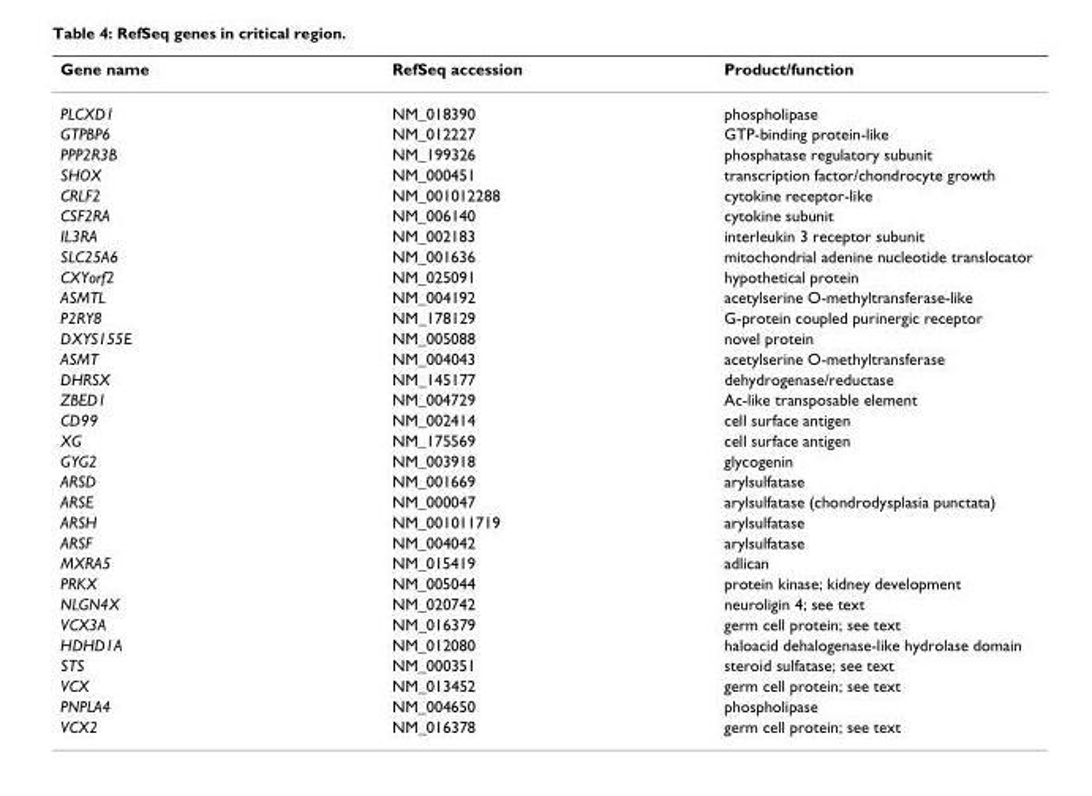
<table><thead><tr><td>Gene name</td><td>RefSeq accession</td><td>Product/function</td></tr></thead><tbody><tr><td>PLCXD1</td><td>NM_018390</td><td>phospholipase</td></tr><tr><td>GTPBP6</td><td>NM_012227</td><td>GTP-binding protein-like</td></tr><tr><td>PPP2R3B</td><td>NM_199326</td><td>phosphatase regulatory subunit</td></tr><tr><td>SHOX</td><td>NM_000451</td><td>transcription factor/chondrocyte growth</td></tr><tr><td>CRLF2</td><td>NM_001012288</td><td>cytokine receptor-like</td></tr><tr><td>CSF2RA</td><td>NM_006140</td><td>cytokine subunit</td></tr><tr><td>IL3RA</td><td>NM_002183</td><td>interleukin 3 receptor subunit</td></tr><tr><td>SLC25A6</td><td>NM_001636</td><td>mitochondrial adenine nucleotide translocator</td></tr><tr><td>CXYorf2</td><td>NM_025091</td><td>hypothetical protein</td></tr><tr><td>ASMTL</td><td>NM_004192</td><td>acetylserine O-methyltransferase-like</td></tr><tr><td>P2RY8</td><td>NM_178129</td><td>G-protein coupled purinergic receptor</td></tr><tr><td>DXYS155E</td><td>NM_005088</td><td>novel protein</td></tr><tr><td>ASMT</td><td>NM_004043</td><td>acetylserine O-methyltransferase</td></tr><tr><td>DHRSX</td><td>NM_145177</td><td>dehydrogenase/reductase</td></tr><tr><td>ZBED1</td><td>NM_004729</td><td>Ac-like transposable element</td></tr><tr><td>CD99</td><td>NM_002414</td><td>cell surface antigen</td></tr><tr><td>XG</td><td>NM_175569</td><td>cell surface antigen</td></tr><tr><td>GYG2</td><td>NM_003918</td><td>glycogenin</td></tr><tr><td>ARSD</td><td>NM_001669</td><td>arylsulfatase</td></tr><tr><td>ARSE</td><td>NM_000047</td><td>arylsulfatase (chondrodysplasia punctata)</td></tr><tr><td>ARSH</td><td>NM_001011719</td><td>arylsulfatase</td></tr><tr><td>ARSF</td><td>NM_004042</td><td>arylsulfatase</td></tr><tr><td>MXRA5</td><td>NM_015419</td><td>adlican</td></tr><tr><td>PRKX</td><td>NM_005044</td><td>protein kinase; kidney development</td></tr><tr><td>NLGN4X</td><td>NM_020742</td><td>neuroligin 4; see text</td></tr><tr><td>VCX3A</td><td>NM_016379</td><td>germ cell protein; see text</td></tr><tr><td>HDHD1A</td><td>NM_012080</td><td>haloacid dehalogenase-like hydrolase domain</td></tr><tr><td>STS</td><td>NM_000351</td><td>steroid sulfatase; see text</td></tr><tr><td>VCX</td><td>NM_013452</td><td>germ cell protein; see text</td></tr><tr><td>PNPLA4</td><td>NM_004650</td><td>phospholipase</td></tr><tr><td>VCX2</td><td>NM_016378</td><td>germ cell protein; see text</td></tr></tbody></table>